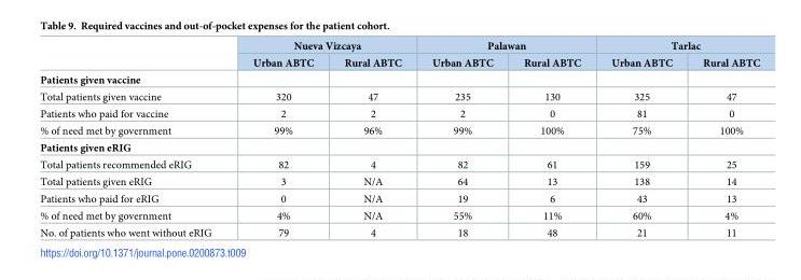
<table><thead><tr><td rowspan="2"></td><td colspan="2">Nueva Vizcaya</td><td colspan="2">Palawan</td><td colspan="2">Tarlac</td></tr><tr><td>Urban ABTC</td><td>Rural ABTC</td><td>Urban ABTC</td><td>Rural ABTC</td><td>Urban ABTC</td><td>Rural ABTC</td></tr></thead><tbody><tr><td colspan="7">Patients given vaccine</td></tr><tr><td>Total patients given vaccine</td><td>320</td><td>47</td><td>235</td><td>130</td><td>325</td><td>47</td></tr><tr><td>Patients who paid for vaccine</td><td>2</td><td>2</td><td>2</td><td>0</td><td>81</td><td>0</td></tr><tr><td>% of need met by government</td><td>99%</td><td>96%</td><td>99%</td><td>100%</td><td>75%</td><td>100%</td></tr><tr><td colspan="7">Patients given eRIG</td></tr><tr><td>Total patients recommended eRIG</td><td>82</td><td>4</td><td>82</td><td>61</td><td>159</td><td>25</td></tr><tr><td>Total patients given eRIG</td><td>3</td><td>N/A</td><td>64</td><td>13</td><td>138</td><td>14</td></tr><tr><td>Patients who paid for eRIG</td><td>0</td><td>N/A</td><td>19</td><td>6</td><td>43</td><td>13</td></tr><tr><td>% of need met by government</td><td>4%</td><td>N/A</td><td>55%</td><td>11%</td><td>60%</td><td>4%</td></tr><tr><td>No. of patients who went without eRIG</td><td>79</td><td>4</td><td>18</td><td>48</td><td>21</td><td>11</td></tr></tbody></table>